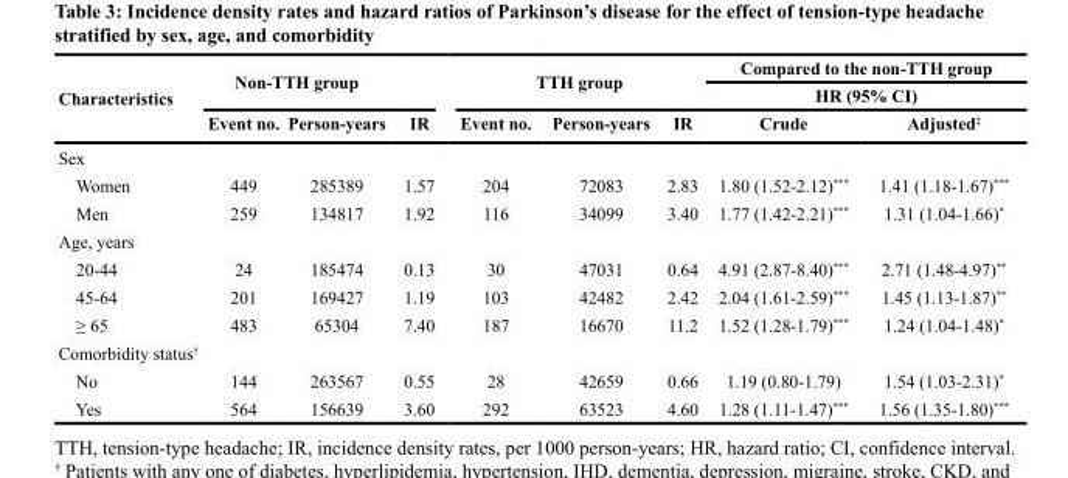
<table><thead><tr><td rowspan="3">Characteristics</td><td rowspan="2" colspan="3">Non-TTH group</td><td rowspan="2" colspan="3">TTH group</td><td rowspan="2" colspan="2">Compared to the non-TTH group HR (95% CI)</td></tr><tr></tr><tr><td>Event no.</td><td>Person-years</td><td>IR</td><td>Event no.</td><td>Person-years</td><td>IR</td><td>Crude</td><td>Adjusted<sup>‡</sup></td></tr></thead><tbody><tr><td colspan="9">Sex</td></tr><tr><td>Women</td><td>449</td><td>285389</td><td>1.57</td><td>204</td><td>72083</td><td>2.83</td><td>1.80 (1.52-2.12)***</td><td>1.41 (1.18-1.67)***</td></tr><tr><td>Men</td><td>259</td><td>134817</td><td>1.92</td><td>116</td><td>34099</td><td>3.40</td><td>1.77 (1.42-2.21)***</td><td>1.31 (1.04-1.66)*</td></tr><tr><td colspan="9">Age, years</td></tr><tr><td>20-44</td><td>24</td><td>185474</td><td>0.13</td><td>30</td><td>47031</td><td>0.64</td><td>4.91 (2.87-8.40)***</td><td>2.71 (1.48-4.97)**</td></tr><tr><td>45-64</td><td>201</td><td>169427</td><td>1.19</td><td>103</td><td>42482</td><td>2.42</td><td>2.04 (1.61-2.59)***</td><td>1.45 (1.13-1.87)**</td></tr><tr><td>≥ 65</td><td>483</td><td>65304</td><td>7.40</td><td>187</td><td>16670</td><td>11.2</td><td>1.52 (1.28-1.79)***</td><td>1.24 (1.04-1.48)*</td></tr><tr><td colspan="9">Comorbidity status<sup>†</sup></td></tr><tr><td>No</td><td>144</td><td>263567</td><td>0.55</td><td>28</td><td>42659</td><td>0.66</td><td>1.19 (0.80-1.79)</td><td>1.54 (1.03-2.31)*</td></tr><tr><td>Yes</td><td>564</td><td>156639</td><td>3.60</td><td>292</td><td>63523</td><td>4.60</td><td>1.28 (1.11-1.47)***</td><td>1.56 (1.35-1.80)***</td></tr></tbody></table>